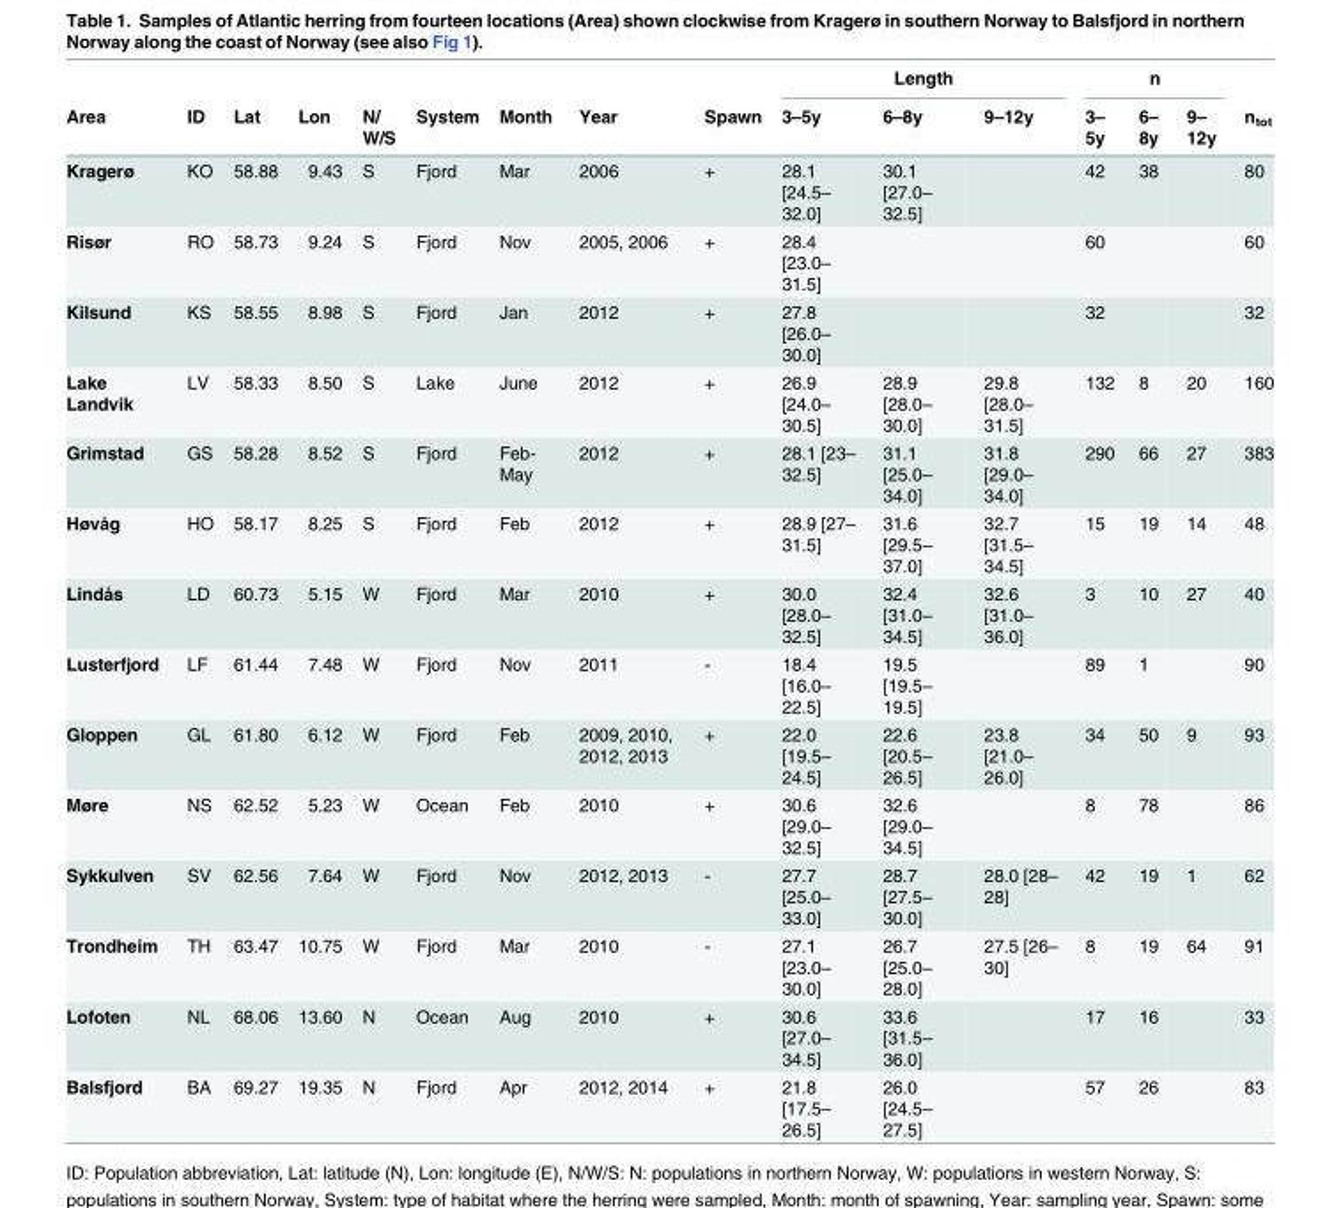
<table><thead><tr><td rowspan="2">Area</td><td rowspan="2">ID</td><td rowspan="2">Lat</td><td rowspan="2">Lon</td><td rowspan="2">N/ W/S</td><td rowspan="2">System</td><td rowspan="2">Month</td><td rowspan="2">Year</td><td rowspan="2">Spawn</td><td colspan="3">Length</td><td colspan="3">n</td><td rowspan="2">n<sub>tot</sub></td></tr><tr><td>3–5y</td><td>6–8y</td><td>9–12y</td><td>3– 5y</td><td>6– 8y</td><td>9– 12y</td></tr></thead><tbody><tr><td>Kragerø</td><td>KO</td><td>58.88</td><td>9.43</td><td>S</td><td>Fjord</td><td>Mar</td><td>2006</td><td>+</td><td>28.1 [24.5– 32.0]</td><td>30.1 [27.0– 32.5]</td><td></td><td>42</td><td>38</td><td></td><td>80</td></tr><tr><td>Risør</td><td>RO</td><td>58.73</td><td>9.24</td><td>S</td><td>Fjord</td><td>Nov</td><td>2005, 2006</td><td>+</td><td>28.4 [23.0– 31.5]</td><td></td><td></td><td>60</td><td></td><td></td><td>60</td></tr><tr><td>Kilsund</td><td>KS</td><td>58.55</td><td>8.98</td><td>S</td><td>Fjord</td><td>Jan</td><td>2012</td><td>+</td><td>27.8 [26.0– 30.0]</td><td></td><td></td><td>32</td><td></td><td></td><td>32</td></tr><tr><td>Lake Landvik</td><td>LV</td><td>58.33</td><td>8.50</td><td>S</td><td>Lake</td><td>June</td><td>2012</td><td>+</td><td>26.9 [24.0– 30.5]</td><td>28.9 [28.0– 30.0]</td><td>29.8 [28.0– 31.5]</td><td>132</td><td>8</td><td>20</td><td>160</td></tr><tr><td>Grimstad</td><td>GS</td><td>58.28</td><td>8.52</td><td>S</td><td>Fjord</td><td>Feb- May</td><td>2012</td><td>+</td><td>28.1 [23– 32.5]</td><td>31.1 [25.0– 34.0]</td><td>31.8 [29.0– 34.0]</td><td>290</td><td>66</td><td>27</td><td>383</td></tr><tr><td>Høvåg</td><td>HO</td><td>58.17</td><td>8.25</td><td>S</td><td>Fjord</td><td>Feb</td><td>2012</td><td>+</td><td>28.9 [27– 31.5]</td><td>31.6 [29.5– 37.0]</td><td>32.7 [31.5– 34.5]</td><td>15</td><td>19</td><td>14</td><td>48</td></tr><tr><td>Lindås</td><td>LD</td><td>60.73</td><td>5.15</td><td>W</td><td>Fjord</td><td>Mar</td><td>2010</td><td>+</td><td>30.0 [28.0– 32.5]</td><td>32.4 [31.0– 34.5]</td><td>32.6 [31.0– 36.0]</td><td>3</td><td>10</td><td>27</td><td>40</td></tr><tr><td>Lusterfjord</td><td>LF</td><td>61.44</td><td>7.48</td><td>W</td><td>Fjord</td><td>Nov</td><td>2011</td><td>-</td><td>18.4 [16.0– 22.5]</td><td>19.5 [19.5– 19.5]</td><td></td><td>89</td><td>1</td><td></td><td>90</td></tr><tr><td>Gloppen</td><td>GL</td><td>61.80</td><td>6.12</td><td>W</td><td>Fjord</td><td>Feb</td><td>2009, 2010, 2012, 2013</td><td>+</td><td>22.0 [19.5– 24.5]</td><td>22.6 [20.5– 26.5]</td><td>23.8 [21.0– 26.0]</td><td>34</td><td>50</td><td>9</td><td>93</td></tr><tr><td>Møre</td><td>NS</td><td>62.52</td><td>5.23</td><td>W</td><td>Ocean</td><td>Feb</td><td>2010</td><td>+</td><td>30.6 [29.0– 32.5]</td><td>32.6 [29.0– 34.5]</td><td></td><td>8</td><td>78</td><td></td><td>86</td></tr><tr><td>Sykkulven</td><td>SV</td><td>62.56</td><td>7.64</td><td>W</td><td>Fjord</td><td>Nov</td><td>2012, 2013</td><td>-</td><td>27.7 [25.0– 33.0]</td><td>28.7 [27.5– 30.0]</td><td>28.0 [28– 28]</td><td>42</td><td>19</td><td>1</td><td>62</td></tr><tr><td>Trondheim</td><td>TH</td><td>63.47</td><td>10.75</td><td>W</td><td>Fjord</td><td>Mar</td><td>2010</td><td>-</td><td>27.1 [23.0– 30.0]</td><td>26.7 [25.0– 28.0]</td><td>27.5 [26– 30]</td><td>8</td><td>19</td><td>64</td><td>91</td></tr><tr><td>Lofoten</td><td>NL</td><td>68.06</td><td>13.60</td><td>N</td><td>Ocean</td><td>Aug</td><td>2010</td><td>+</td><td>30.6 [27.0– 34.5]</td><td>33.6 [31.5– 36.0]</td><td></td><td>17</td><td>16</td><td></td><td>33</td></tr><tr><td>Balsfjord</td><td>BA</td><td>69.27</td><td>19.35</td><td>N</td><td>Fjord</td><td>Apr</td><td>2012, 2014</td><td>+</td><td>21.8 [17.5– 26.5]</td><td>26.0 [24.5– 27.5]</td><td></td><td>57</td><td>26</td><td></td><td>83</td></tr></tbody></table>